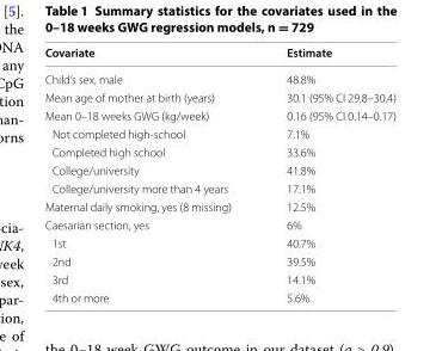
<table><thead><tr><td>Covariate</td><td>Estimate</td></tr></thead><tbody><tr><td>Child’s sex, male</td><td>48.8%</td></tr><tr><td>Mean age of mother at birth (years)</td><td>30.1 (95% CI 29.8–30.4)</td></tr><tr><td>Mean 0–18 weeks GWG (kg/week)</td><td>0.16 (95% CI 0.14–0.17)</td></tr><tr><td>Not completed high-school</td><td>7.1%</td></tr><tr><td>Completed high school</td><td>33.6%</td></tr><tr><td>College/university</td><td>41.8%</td></tr><tr><td>College/university more than 4 years</td><td>17.1%</td></tr><tr><td>Maternal daily smoking, yes (8 missing)</td><td>12.5%</td></tr><tr><td>Caesarian section, yes</td><td>6%</td></tr><tr><td>1st</td><td>40.7%</td></tr><tr><td>2nd</td><td>39.5%</td></tr><tr><td>3rd</td><td>14.1%</td></tr><tr><td>4th or more</td><td>5.6%</td></tr></tbody></table>